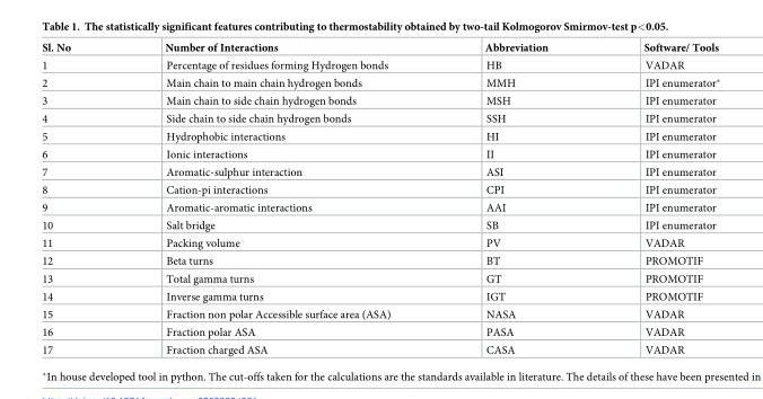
<table><thead><tr><td>Sl. No</td><td>Number of Interactions</td><td>Abbreviation</td><td>Software/ Tools</td></tr></thead><tbody><tr><td>1</td><td>Percentage of residues forming Hydrogen bonds</td><td>HB</td><td>VADAR</td></tr><tr><td>2</td><td>Main chain to main chain hydrogen bonds</td><td>MMH</td><td>IPI enumerator*</td></tr><tr><td>3</td><td>Main chain to side chain hydrogen bonds</td><td>MSH</td><td>IPI enumerator</td></tr><tr><td>4</td><td>Side chain to side chain hydrogen bonds</td><td>SSH</td><td>IPI enumerator</td></tr><tr><td>5</td><td>Hydrophobic interactions</td><td>HI</td><td>IPI enumerator</td></tr><tr><td>6</td><td>Ionic interactions</td><td>II</td><td>IPI enumerator</td></tr><tr><td>7</td><td>Aromatic-sulphur interaction</td><td>ASI</td><td>IPI enumerator</td></tr><tr><td>8</td><td>Cation-pi interactions</td><td>CPI</td><td>IPI enumerator</td></tr><tr><td>9</td><td>Aromatic-aromatic interactions</td><td>AAI</td><td>IPI enumerator</td></tr><tr><td>10</td><td>Salt bridge</td><td>SB</td><td>IPI enumerator</td></tr><tr><td>11</td><td>Packing volume</td><td>PV</td><td>VADAR</td></tr><tr><td>12</td><td>Beta turns</td><td>BT</td><td>PROMOTIF</td></tr><tr><td>13</td><td>Total gamma turns</td><td>GT</td><td>PROMOTIF</td></tr><tr><td>14</td><td>Inverse gamma turns</td><td>IGT</td><td>PROMOTIF</td></tr><tr><td>15</td><td>Fraction non polar Accessible surface area (ASA)</td><td>NASA</td><td>VADAR</td></tr><tr><td>16</td><td>Fraction polar ASA</td><td>PASA</td><td>VADAR</td></tr><tr><td>17</td><td>Fraction charged ASA</td><td>CASA</td><td>VADAR</td></tr></tbody></table>